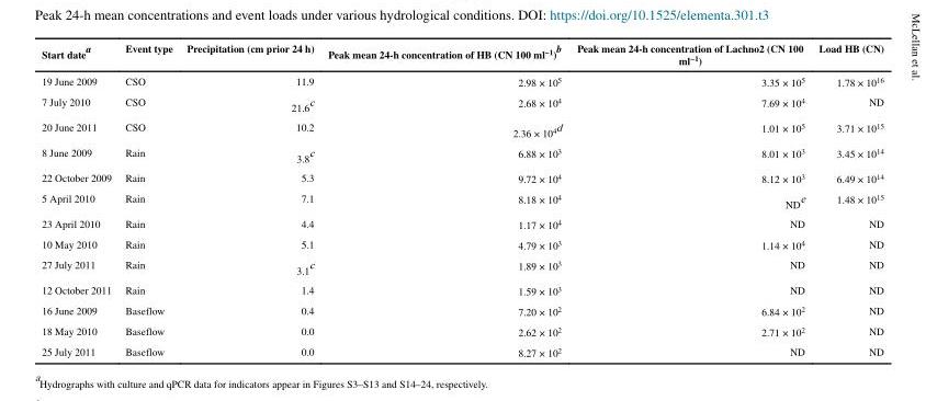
<table><thead><tr><td>Start date<sup>a</sup></td><td>Event type</td><td>Precipitation (cm prior 24 h)</td><td>Peak mean 24-h concentration of HB (CN 100 ml<sup>−1</sup>)<sup>b</sup></td><td>Peak mean 24-h concentration of Lachno2 (CN 100 ml<sup>−1</sup>)</td><td>Load HB (CN)</td></tr></thead><tbody><tr><td>19 June 2009</td><td>CSO</td><td>11.9</td><td>2.98 × 10<sup>5</sup></td><td>3.35 × 10<sup>5</sup></td><td>1.78 × 10<sup>16</sup></td></tr><tr><td>7 July 2010</td><td>CSO</td><td>21.6<sup>c</sup></td><td>2.68 × 10<sup>4</sup></td><td>7.69 × 10<sup>4</sup></td><td>ND</td></tr><tr><td>20 June 2011</td><td>CSO</td><td>10.2</td><td>2.36 × 10<sup>4d</sup></td><td>1.01 × 10<sup>5</sup></td><td>3.71 × 10<sup>15</sup></td></tr><tr><td>8 June 2009</td><td>Rain</td><td>3.8<sup>c</sup></td><td>6.88 × 10<sup>3</sup></td><td>8.01 × 10<sup>3</sup></td><td>3.45 × 10<sup>14</sup></td></tr><tr><td>22 October 2009</td><td>Rain</td><td>5.3</td><td>9.72 × 10<sup>4</sup></td><td>8.12 × 10<sup>3</sup></td><td>6.49 × 10<sup>14</sup></td></tr><tr><td>5 April 2010</td><td>Rain</td><td>7.1</td><td>8.18 × 10<sup>4</sup></td><td>ND<sup>e</sup></td><td>1.48 × 10<sup>15</sup></td></tr><tr><td>23 April 2010</td><td>Rain</td><td>4.4</td><td>1.17 × 10<sup>4</sup></td><td>ND</td><td>ND</td></tr><tr><td>10 May 2010</td><td>Rain</td><td>5.1</td><td>4.79 × 10<sup>3</sup></td><td>1.14 × 10<sup>4</sup></td><td>ND</td></tr><tr><td>27 July 2011</td><td>Rain</td><td>3.1<sup>c</sup></td><td>1.89 × 10<sup>3</sup></td><td>ND</td><td>ND</td></tr><tr><td>12 October 2011</td><td>Rain</td><td>1.4</td><td>1.59 × 10<sup>3</sup></td><td>ND</td><td>ND</td></tr><tr><td>16 June 2009</td><td>Baseflow</td><td>0.4</td><td>7.20 × 10<sup>2</sup></td><td>6.84 × 10<sup>2</sup></td><td>ND</td></tr><tr><td>18 May 2010</td><td>Baseflow</td><td>0.0</td><td>2.62 × 10<sup>2</sup></td><td>2.71 × 10<sup>2</sup></td><td>ND</td></tr><tr><td>25 July 2011</td><td>Baseflow</td><td>0.0</td><td>8.27 × 10<sup>2</sup></td><td>ND</td><td>ND</td></tr></tbody></table>